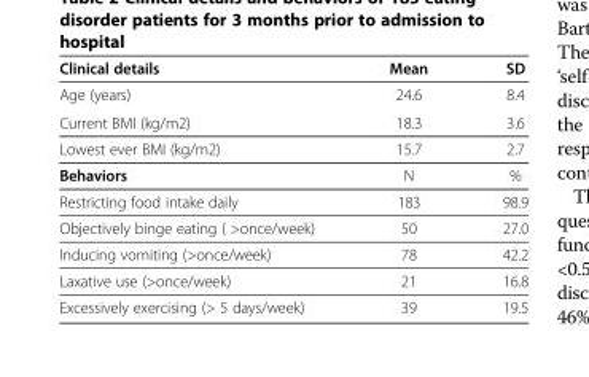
<table><thead><tr><td>Clinical details</td><td>Mean</td><td>SD</td></tr></thead><tbody><tr><td>Age (years)</td><td>24.6</td><td>8.4</td></tr><tr><td>Current BMI (kg/m2)</td><td>18.3</td><td>3.6</td></tr><tr><td>Lowest ever BMI (kg/m2)</td><td>15.7</td><td>2.7</td></tr><tr><td>Behaviors</td><td>N</td><td>%</td></tr><tr><td>Restricting food intake daily</td><td>183</td><td>98.9</td></tr><tr><td>Objectively binge eating ( &gt;once/week)</td><td>50</td><td>27.0</td></tr><tr><td>Inducing vomiting (&gt;once/week)</td><td>78</td><td>42.2</td></tr><tr><td>Laxative use (&gt;once/week)</td><td>21</td><td>16.8</td></tr><tr><td>Excessively exercising (&gt; 5 days/week)</td><td>39</td><td>19.5</td></tr></tbody></table>